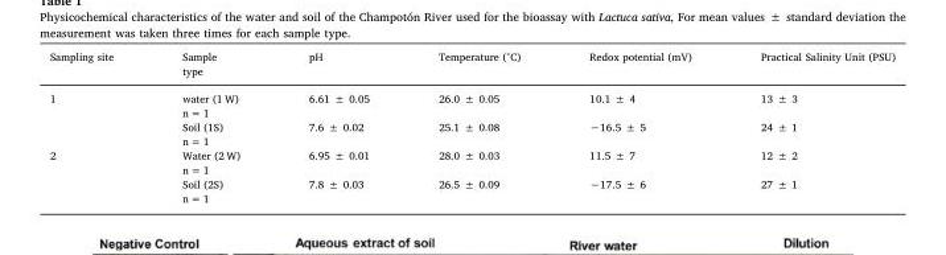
<table><thead><tr><td>Sampling site</td><td>Sample type</td><td>pH</td><td>Temperature (°C)</td><td>Redox potential (mV)</td><td>Practical Salinity Unit (PSU)</td></tr></thead><tbody><tr><td rowspan="2">1</td><td>water (1 W) n = 1</td><td>6.61 ± 0.05</td><td>26.0 ± 0.05</td><td>10.1 ± 4</td><td>13 ± 3</td></tr><tr><td>Soil (1S) n = 1</td><td>7.6 ± 0.02</td><td>25.1 ± 0.08</td><td>−16.5 ± 5</td><td>24 ± 1</td></tr><tr><td rowspan="2">2</td><td>Water (2 W) n = 1</td><td>6.95 ± 0.01</td><td>28.0 ± 0.03</td><td>11.5 ± 7</td><td>12 ± 2</td></tr><tr><td>Soil (2S) n = 1</td><td>7.8 ± 0.03</td><td>26.5 ± 0.09</td><td>−17.5 ± 6</td><td>27 ± 1</td></tr></tbody></table>